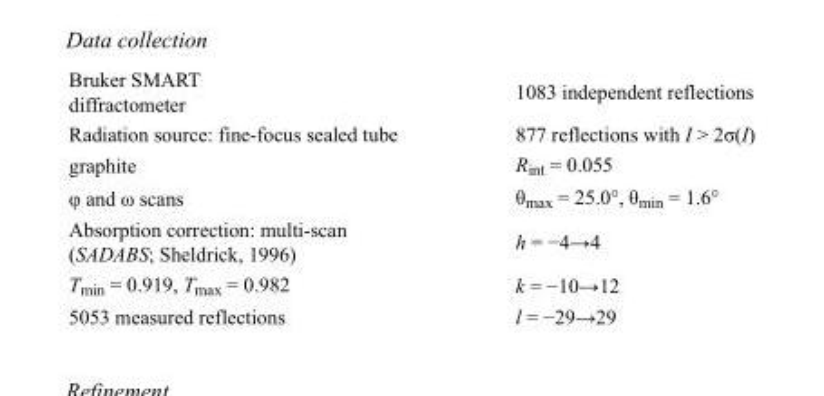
<table><tbody><tr><td>Bruker SMART diffractometer</td><td>1083 independent reflections</td></tr><tr><td>Radiation source: fine-focus sealed tube</td><td>877 reflections with I &gt; 2σ(I)</td></tr><tr><td>graphite</td><td>R<sub>int</sub> = 0.055</td></tr><tr><td>φ and ω scans</td><td>θ<sub>max</sub> = 25.0°, θ<sub>min</sub> = 1.6°</td></tr><tr><td>Absorption correction: multi-scan (SADABS; Sheldrick, 1996)</td><td>h = −4→4</td></tr><tr><td>T<sub>min</sub> = 0.919, T<sub>max</sub> = 0.982</td><td>k = −10→12</td></tr><tr><td>5053 measured reflections</td><td>l = −29→29</td></tr></tbody></table>